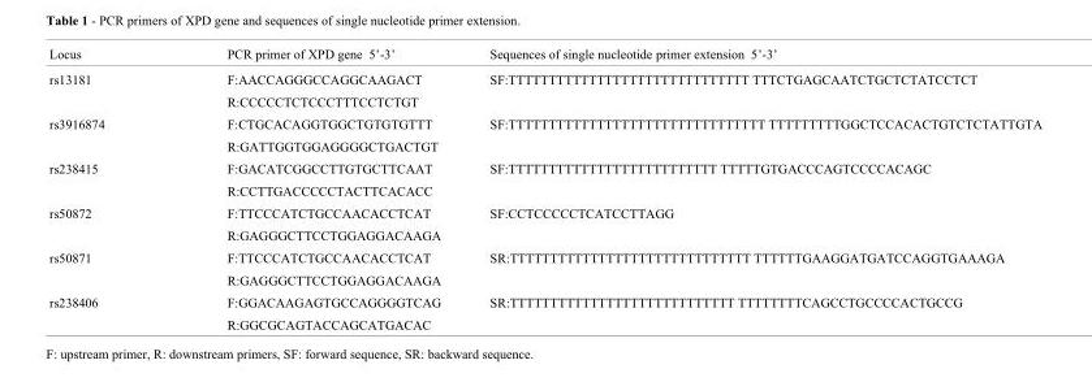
<table><thead><tr><td>Locus</td><td>PCR primer of XPD gene 5’-3’</td><td>Sequences of single nucleotide primer extension 5’-3’</td></tr></thead><tbody><tr><td rowspan="2">rs13181</td><td>F:AACCAGGGCCAGGCAAGACT</td><td>SF:TTTTTTTTTTTTTTTTTTTTTTTTTTTTTT TTTCTGAGCAATCTGCTCTATCCTCT</td></tr><tr><td>R:CCCCCTCTCCCTTTCCTCTGT</td><td></td></tr><tr><td rowspan="2">rs3916874</td><td>F:CTGCACAGGTGGCTGTGTGTTT</td><td>SF:TTTTTTTTTTTTTTTTTTTTTTTTTTTTTTTT TTTTTTTTTGGCTCCACACTGTCTCTATTGTA</td></tr><tr><td>R:GATTGGTGGAGGGGCTGACTGT</td><td></td></tr><tr><td rowspan="2">rs238415</td><td>F:GACATCGGCCTTGTGCTTCAAT</td><td>SF:TTTTTTTTTTTTTTTTTTTTTTTTTT TTTTTGTGACCCAGTCCCCACAGC</td></tr><tr><td>R:CCTTGACCCCCTACTTCACACC</td><td></td></tr><tr><td rowspan="2">rs50872</td><td>F:TTCCCATCTGCCAACACCTCAT</td><td>SF:CCTCCCCCTCATCCTTAGG</td></tr><tr><td>R:GAGGGCTTCCTGGAGGACAAGA</td><td></td></tr><tr><td rowspan="2">rs50871</td><td>F:TTCCCATCTGCCAACACCTCAT</td><td>SR:TTTTTTTTTTTTTTTTTTTTTTTTTTTTTT TTTTTTGAAGGATGATCCAGGTGAAAGA</td></tr><tr><td>R:GAGGGCTTCCTGGAGGACAAGA</td><td></td></tr><tr><td rowspan="2">rs238406</td><td>F:GGACAAGAGTGCCAGGGGTCAG</td><td>SR:TTTTTTTTTTTTTTTTTTTTTTTTTTTT TTTTTTTTCAGCCTGCCCCACTGCCG</td></tr><tr><td>R:GGCGCAGTACCAGCATGACAC</td><td></td></tr></tbody></table>